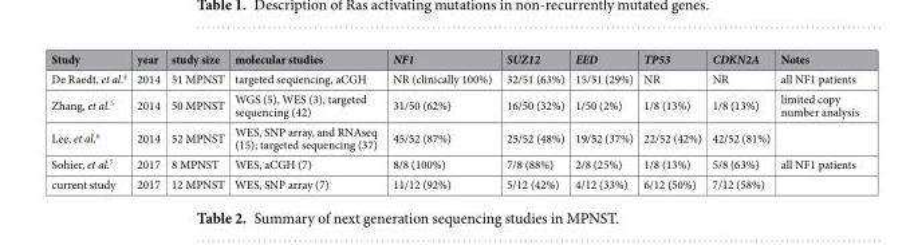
<table><thead><tr><td>Study</td><td>year</td><td>study size</td><td>molecular studies</td><td>NF1</td><td>SUZ12</td><td>EED</td><td>TP53</td><td>CDKN2A</td><td>Notes</td></tr></thead><tbody><tr><td>De Raedt, et al.<sup>4</sup></td><td>2014</td><td>51 MPNST</td><td>targeted sequencing, aCGH</td><td>NR (clinically 100%)</td><td>32/51 (63%)</td><td>15/51 (29%)</td><td>NR</td><td>NR</td><td>all NF1 patients</td></tr><tr><td>Zhang, et al.<sup>5</sup></td><td>2014</td><td>50 MPNST</td><td>WGS (5), WES (3), targeted sequencing (42)</td><td>31/50 (62%)</td><td>16/50 (32%)</td><td>1/50 (2%)</td><td>1/8 (13%)</td><td>1/8 (13%)</td><td>limited copy number analysis</td></tr><tr><td>Lee, et al.<sup>6</sup></td><td>2014</td><td>52 MPNST</td><td>WES, SNP array, and RNAseq (15); targeted sequencing (37)</td><td>45/52 (87%)</td><td>25/52 (48%)</td><td>19/52 (37%)</td><td>22/52 (42%)</td><td>42/52 (81%)</td><td></td></tr><tr><td>Sohier, et al.<sup>7</sup></td><td>2017</td><td>8 MPNST</td><td>WES, aCGH (7)</td><td>8/8 (100%)</td><td>7/8 (88%)</td><td>2/8 (25%)</td><td>1/8 (13%)</td><td>5/8 (63%)</td><td>all NF1 patients</td></tr><tr><td>current study</td><td>2017</td><td>12 MPNST</td><td>WES, SNP array (7)</td><td>11/12 (92%)</td><td>5/12 (42%)</td><td>4/12 (33%)</td><td>6/12 (50%)</td><td>7/12 (58%)</td><td></td></tr></tbody></table>